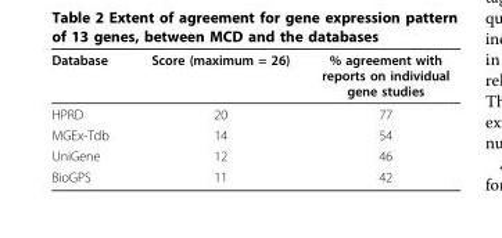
<table><thead><tr><td>Database</td><td>Score (maximum = 26)</td><td>% agreement with reports on individual gene studies</td></tr></thead><tbody><tr><td>HPRD</td><td>20</td><td>77</td></tr><tr><td>MGEx-Tdb</td><td>14</td><td>54</td></tr><tr><td>UniGene</td><td>12</td><td>46</td></tr><tr><td>BioGPS</td><td>11</td><td>42</td></tr></tbody></table>